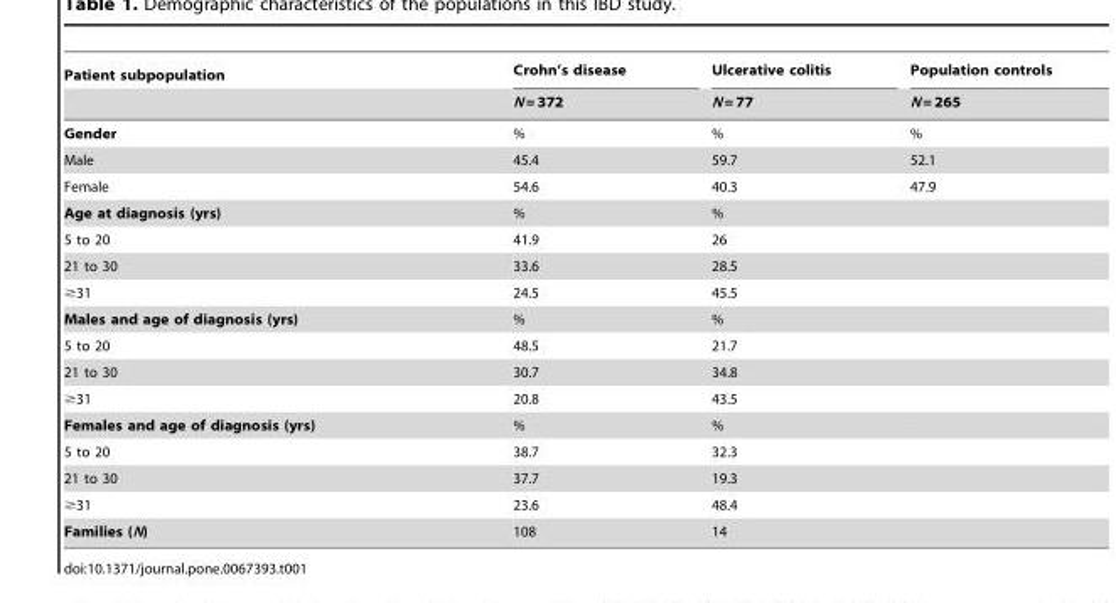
<table><thead><tr><td rowspan="2">Patient subpopulation</td><td rowspan="2">Crohn’s disease N = 372</td><td rowspan="2">Ulcerative colitis N = 77</td><td rowspan="2">Population controls N = 265</td></tr><tr></tr></thead><tbody><tr><td>Gender</td><td>%</td><td>%</td><td>%</td></tr><tr><td>Male</td><td>45.4</td><td>59.7</td><td>52.1</td></tr><tr><td>Female</td><td>54.6</td><td>40.3</td><td>47.9</td></tr><tr><td>Age at diagnosis (yrs)</td><td>%</td><td>%</td><td></td></tr><tr><td>5 to 20</td><td>41.9</td><td>26</td><td></td></tr><tr><td>21 to 30</td><td>33.6</td><td>28.5</td><td></td></tr><tr><td>≥31</td><td>24.5</td><td>45.5</td><td></td></tr><tr><td>Males and age of diagnosis (yrs)</td><td>%</td><td>%</td><td></td></tr><tr><td>5 to 20</td><td>48.5</td><td>21.7</td><td></td></tr><tr><td>21 to 30</td><td>30.7</td><td>34.8</td><td></td></tr><tr><td>≥31</td><td>20.8</td><td>43.5</td><td></td></tr><tr><td>Females and age of diagnosis (yrs)</td><td>%</td><td>%</td><td></td></tr><tr><td>5 to 20</td><td>38.7</td><td>32.3</td><td></td></tr><tr><td>21 to 30</td><td>37.7</td><td>19.3</td><td></td></tr><tr><td>≥31</td><td>23.6</td><td>48.4</td><td></td></tr><tr><td>Families (N)</td><td>108</td><td>14</td><td></td></tr></tbody></table>